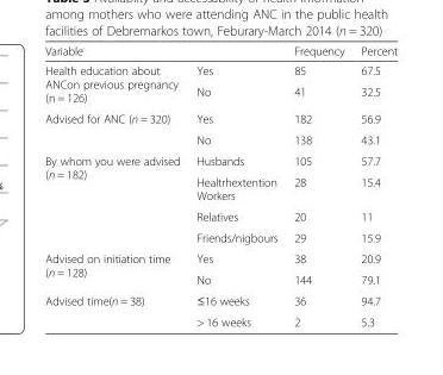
<table><thead><tr><td>Variable</td><td></td><td>Frequency</td><td>Percent</td></tr></thead><tbody><tr><td rowspan="2">Health education about ANCon previous pregnancy (n = 126)</td><td>Yes</td><td>85</td><td>67.5</td></tr><tr><td>No</td><td>41</td><td>32.5</td></tr><tr><td rowspan="2">Advised for ANC (n = 320)</td><td>Yes</td><td>182</td><td>56.9</td></tr><tr><td>No</td><td>138</td><td>43.1</td></tr><tr><td rowspan="4">By whom you were advised (n = 182)</td><td>Husbands</td><td>105</td><td>57.7</td></tr><tr><td>Healtrhextention Workers</td><td>28</td><td>15.4</td></tr><tr><td>Relatives</td><td>20</td><td>11</td></tr><tr><td>Friends/nigbours</td><td>29</td><td>15.9</td></tr><tr><td rowspan="2">Advised on initiation time (n = 128)</td><td>Yes</td><td>38</td><td>20.9</td></tr><tr><td>No</td><td>144</td><td>79.1</td></tr><tr><td rowspan="2">Advised time(n = 38)</td><td>≤16 weeks</td><td>36</td><td>94.7</td></tr><tr><td>&gt; 16 weeks</td><td>2</td><td>5.3</td></tr></tbody></table>